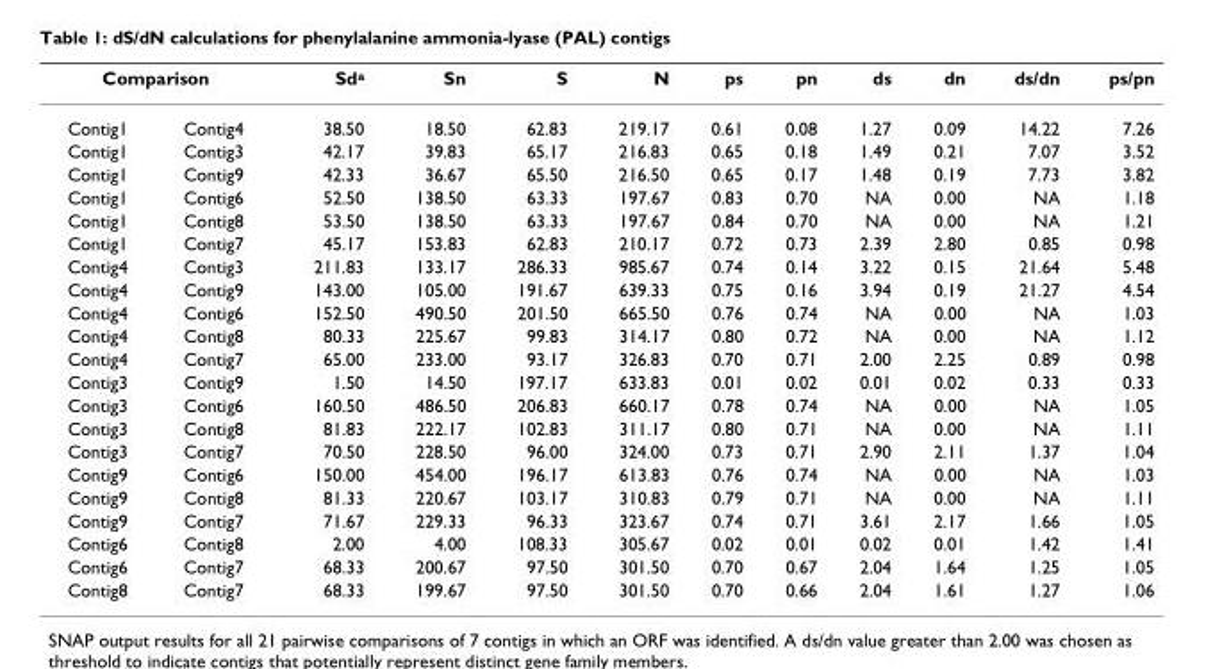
<table><thead><tr><td colspan="2">Comparison</td><td rowspan="2">Sd<sup>a</sup> 38.50</td><td rowspan="2">Sn 18.50</td><td rowspan="2">S 62.83</td><td rowspan="2">N 219.17</td><td rowspan="2">ps 0.61</td><td rowspan="2">pn 0.08</td><td rowspan="2">ds 1.27</td><td rowspan="2">dn 0.09</td><td rowspan="2">ds/dn 14.22</td><td rowspan="2">ps/pn 7.26</td></tr><tr><td>Contig1</td><td>Contig4</td></tr></thead><tbody><tr><td>Contig1</td><td>Contig3</td><td>42.17</td><td>39.83</td><td>65.17</td><td>216.83</td><td>0.65</td><td>0.18</td><td>1.49</td><td>0.21</td><td>7.07</td><td>3.52</td></tr><tr><td>Contig1</td><td>Contig9</td><td>42.33</td><td>36.67</td><td>65.50</td><td>216.50</td><td>0.65</td><td>0.17</td><td>1.48</td><td>0.19</td><td>7.73</td><td>3.82</td></tr><tr><td>Contig1</td><td>Contig6</td><td>52.50</td><td>138.50</td><td>63.33</td><td>197.67</td><td>0.83</td><td>0.70</td><td>NA</td><td>0.00</td><td>NA</td><td>1.18</td></tr><tr><td>Contig1</td><td>Contig8</td><td>53.50</td><td>138.50</td><td>63.33</td><td>197.67</td><td>0.84</td><td>0.70</td><td>NA</td><td>0.00</td><td>NA</td><td>1.21</td></tr><tr><td>Contig1</td><td>Contig7</td><td>45.17</td><td>153.83</td><td>62.83</td><td>210.17</td><td>0.72</td><td>0.73</td><td>2.39</td><td>2.80</td><td>0.85</td><td>0.98</td></tr><tr><td>Contig4</td><td>Contig3</td><td>211.83</td><td>133.17</td><td>286.33</td><td>985.67</td><td>0.74</td><td>0.14</td><td>3.22</td><td>0.15</td><td>21.64</td><td>5.48</td></tr><tr><td>Contig4</td><td>Contig9</td><td>143.00</td><td>105.00</td><td>191.67</td><td>639.33</td><td>0.75</td><td>0.16</td><td>3.94</td><td>0.19</td><td>21.27</td><td>4.54</td></tr><tr><td>Contig4</td><td>Contig6</td><td>152.50</td><td>490.50</td><td>201.50</td><td>665.50</td><td>0.76</td><td>0.74</td><td>NA</td><td>0.00</td><td>NA</td><td>1.03</td></tr><tr><td>Contig4</td><td>Contig8</td><td>80.33</td><td>225.67</td><td>99.83</td><td>314.17</td><td>0.80</td><td>0.72</td><td>NA</td><td>0.00</td><td>NA</td><td>1.12</td></tr><tr><td>Contig4</td><td>Contig7</td><td>65.00</td><td>233.00</td><td>93.17</td><td>326.83</td><td>0.70</td><td>0.71</td><td>2.00</td><td>2.25</td><td>0.89</td><td>0.98</td></tr><tr><td>Contig3</td><td>Contig9</td><td>1.50</td><td>14.50</td><td>197.17</td><td>633.83</td><td>0.01</td><td>0.02</td><td>0.01</td><td>0.02</td><td>0.33</td><td>0.33</td></tr><tr><td>Contig3</td><td>Contig6</td><td>160.50</td><td>486.50</td><td>206.83</td><td>660.17</td><td>0.78</td><td>0.74</td><td>NA</td><td>0.00</td><td>NA</td><td>1.05</td></tr><tr><td>Contig3</td><td>Contig8</td><td>81.83</td><td>222.17</td><td>102.83</td><td>311.17</td><td>0.80</td><td>0.71</td><td>NA</td><td>0.00</td><td>NA</td><td>1.11</td></tr><tr><td>Contig3</td><td>Contig7</td><td>70.50</td><td>228.50</td><td>96.00</td><td>324.00</td><td>0.73</td><td>0.71</td><td>2.90</td><td>2.11</td><td>1.37</td><td>1.04</td></tr><tr><td>Contig9</td><td>Contig6</td><td>150.00</td><td>454.00</td><td>196.17</td><td>613.83</td><td>0.76</td><td>0.74</td><td>NA</td><td>0.00</td><td>NA</td><td>1.03</td></tr><tr><td>Contig9</td><td>Contig8</td><td>81.33</td><td>220.67</td><td>103.17</td><td>310.83</td><td>0.79</td><td>0.71</td><td>NA</td><td>0.00</td><td>NA</td><td>1.11</td></tr><tr><td>Contig9</td><td>Contig7</td><td>71.67</td><td>229.33</td><td>96.33</td><td>323.67</td><td>0.74</td><td>0.71</td><td>3.61</td><td>2.17</td><td>1.66</td><td>1.05</td></tr><tr><td>Contig6</td><td>Contig8</td><td>2.00</td><td>4.00</td><td>108.33</td><td>305.67</td><td>0.02</td><td>0.01</td><td>0.02</td><td>0.01</td><td>1.42</td><td>1.41</td></tr><tr><td>Contig6</td><td>Contig7</td><td>68.33</td><td>200.67</td><td>97.50</td><td>301.50</td><td>0.70</td><td>0.67</td><td>2.04</td><td>1.64</td><td>1.25</td><td>1.05</td></tr><tr><td>Contig8</td><td>Contig7</td><td>68.33</td><td>199.67</td><td>97.50</td><td>301.50</td><td>0.70</td><td>0.66</td><td>2.04</td><td>1.61</td><td>1.27</td><td>1.06</td></tr></tbody></table>